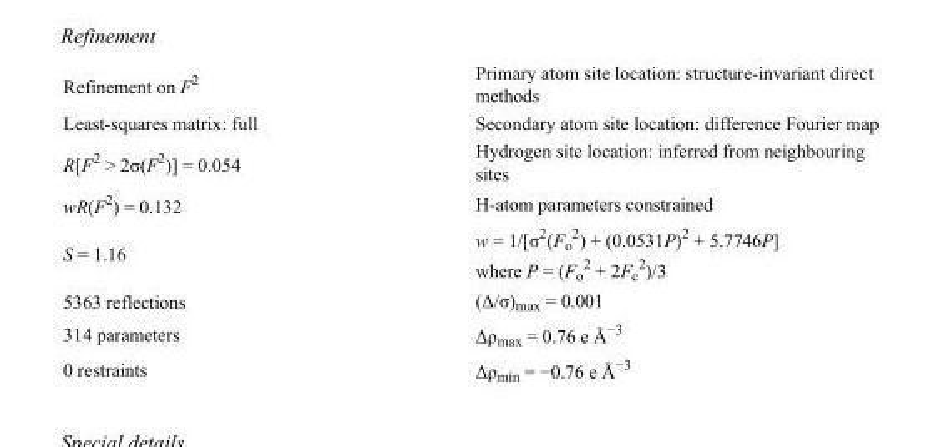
<table><tbody><tr><td>Refinement on F<sup>2</sup></td><td>Primary atom site location: structure-invariant direct methods</td></tr><tr><td>Least-squares matrix: full</td><td>Secondary atom site location: difference Fourier map</td></tr><tr><td>R[F<sup>2</sup> &gt; 2σ(F<sup>2</sup>)] = 0.054</td><td>Hydrogen site location: inferred from neighbouring sites</td></tr><tr><td>wR(F<sup>2</sup>) = 0.132</td><td>H-atom parameters constrained</td></tr><tr><td>S = 1.16</td><td>w = 1/[σ<sup>2</sup>(F<sub>o</sub> <sup>2</sup>) + (0.0531P)<sup>2</sup> + 5.7746P] where P = (F<sub>o</sub> <sup>2</sup> + 2F<sub>c</sub> <sup>2</sup>)/3</td></tr><tr><td>5363 reflections</td><td>(Δ/σ)<sub>max</sub> = 0.001</td></tr><tr><td>314 parameters</td><td>Δρ<sub>max</sub> = 0.76 e Å<sup>−3</sup></td></tr><tr><td>0 restraints</td><td>Δρ<sub>min</sub> = −0.76 e Å<sup>−3</sup></td></tr></tbody></table>